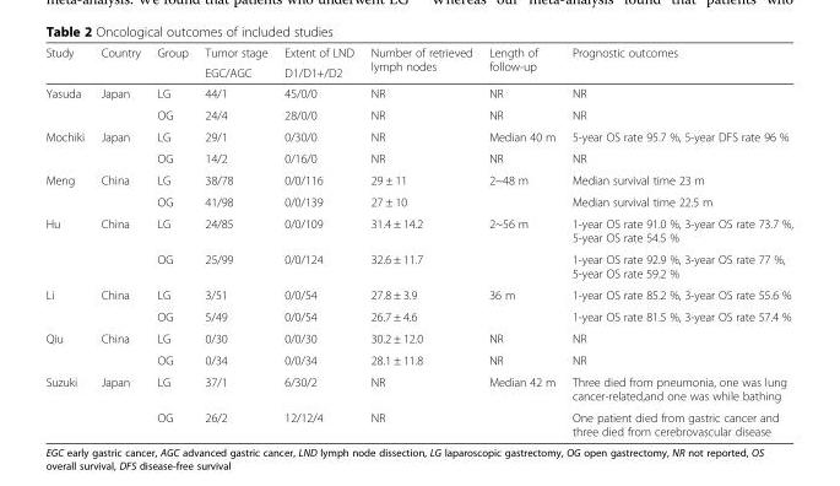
<table><thead><tr><td rowspan="2">Study</td><td rowspan="2">Country</td><td rowspan="2">Group</td><td rowspan="2">Tumor stage EGC/AGC</td><td rowspan="2">Extent of LND D1/D1+/D2</td><td rowspan="2">Number of retrieved lymph nodes</td><td rowspan="2">Length of follow-up</td><td rowspan="2">Prognostic outcomes</td></tr><tr></tr></thead><tbody><tr><td rowspan="2">Yasuda</td><td>Japan</td><td>LG</td><td>44/1</td><td>45/0/0</td><td>NR</td><td>NR</td><td>NR</td></tr><tr><td></td><td>OG</td><td>24/4</td><td>28/0/0</td><td>NR</td><td>NR</td><td>NR</td></tr><tr><td rowspan="2">Mochiki</td><td>Japan</td><td>LG</td><td>29/1</td><td>0/30/0</td><td>NR</td><td>Median 40 m</td><td>5-year OS rate 95.7 %, 5-year DFS rate 96 %</td></tr><tr><td></td><td>OG</td><td>14/2</td><td>0/16/0</td><td>NR</td><td>NR</td><td>NR</td></tr><tr><td rowspan="2">Meng</td><td>China</td><td>LG</td><td>38/78</td><td>0/0/116</td><td>29 ± 11</td><td rowspan="2">2~48 m</td><td>Median survival time 23 m</td></tr><tr><td></td><td>OG</td><td>41/98</td><td>0/0/139</td><td>27 ± 10</td><td>Median survival time 22.5 m</td></tr><tr><td rowspan="2">Hu</td><td>China</td><td>LG</td><td>24/85</td><td>0/0/109</td><td>31.4 ± 14.2</td><td rowspan="2">2~56 m</td><td>1-year OS rate 91.0 %, 3-year OS rate 73.7 %, 5-year OS rate 54.5 %</td></tr><tr><td></td><td>OG</td><td>25/99</td><td>0/0/124</td><td>32.6 ± 11.7</td><td>1-year OS rate 92.9 %, 3-year OS rate 77 %, 5-year OS rate 59.2 %</td></tr><tr><td rowspan="2">Li</td><td>China</td><td>LG</td><td>3/51</td><td>0/0/54</td><td>27.8 ± 3.9</td><td rowspan="2">36 m</td><td>1-year OS rate 85.2 %, 3-year OS rate 55.6 %</td></tr><tr><td></td><td>OG</td><td>5/49</td><td>0/0/54</td><td>26.7 ± 4.6</td><td>1-year OS rate 81.5 %, 3-year OS rate 57.4 %</td></tr><tr><td rowspan="2">Qiu</td><td>China</td><td>LG</td><td>0/30</td><td>0/0/30</td><td>30.2 ± 12.0</td><td>NR</td><td>NR</td></tr><tr><td></td><td>OG</td><td>0/34</td><td>0/0/34</td><td>28.1 ± 11.8</td><td>NR</td><td>NR</td></tr><tr><td rowspan="2">Suzuki</td><td>Japan</td><td>LG</td><td>37/1</td><td>6/30/2</td><td>NR</td><td rowspan="2">Median 42 m</td><td>Three died from pneumonia, one was lung cancer-related,and one was while bathing</td></tr><tr><td></td><td>OG</td><td>26/2</td><td>12/12/4</td><td>NR</td><td>One patient died from gastric cancer and three died from cerebrovascular disease</td></tr></tbody></table>